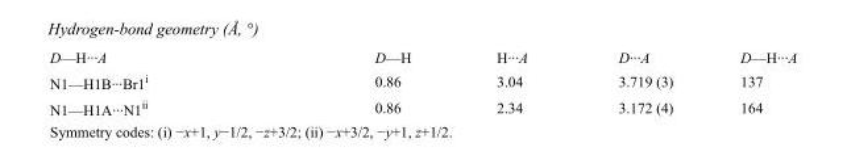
<table><tbody><tr><td>D—H···A</td><td>D—H</td><td>H···A</td><td>D···A</td><td>D—H···A</td></tr><tr><td>N1—H1B···Br1<sup>i</sup></td><td>0.86</td><td>3.04</td><td>3.719 (3)</td><td>137</td></tr><tr><td>N1—H1A···N1<sup>ii</sup></td><td>0.86</td><td>2.34</td><td>3.172 (4)</td><td>164</td></tr></tbody></table>